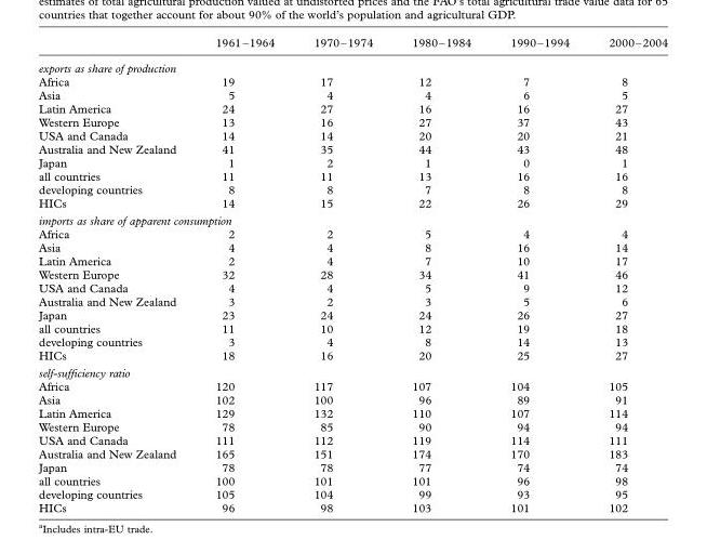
<table><thead><tr><td></td><td>1961–1964</td><td>1970–1974</td><td>1980–1984</td><td>1990–1994</td><td>2000–2004</td></tr></thead><tbody><tr><td colspan="6">exports as share of production</td></tr><tr><td>Africa</td><td>19</td><td>17</td><td>12</td><td>7</td><td>8</td></tr><tr><td>Asia</td><td>5</td><td>4</td><td>4</td><td>6</td><td>5</td></tr><tr><td>Latin America</td><td>24</td><td>27</td><td>16</td><td>16</td><td>27</td></tr><tr><td>Western Europe</td><td>13</td><td>16</td><td>27</td><td>37</td><td>43</td></tr><tr><td>USA and Canada</td><td>14</td><td>14</td><td>20</td><td>20</td><td>21</td></tr><tr><td>Australia and New Zealand</td><td>41</td><td>35</td><td>44</td><td>43</td><td>48</td></tr><tr><td>Japan</td><td>1</td><td>2</td><td>1</td><td>0</td><td>1</td></tr><tr><td>all countries</td><td>11</td><td>11</td><td>13</td><td>16</td><td>16</td></tr><tr><td>developing countries</td><td>8</td><td>8</td><td>7</td><td>8</td><td>8</td></tr><tr><td>HICs</td><td>14</td><td>15</td><td>22</td><td>26</td><td>29</td></tr><tr><td colspan="6">imports as share of apparent consumption</td></tr><tr><td>Africa</td><td>2</td><td>2</td><td>5</td><td>4</td><td>4</td></tr><tr><td>Asia</td><td>4</td><td>4</td><td>8</td><td>16</td><td>14</td></tr><tr><td>Latin America</td><td>2</td><td>4</td><td>7</td><td>10</td><td>17</td></tr><tr><td>Western Europe</td><td>32</td><td>28</td><td>34</td><td>41</td><td>46</td></tr><tr><td>USA and Canada</td><td>4</td><td>4</td><td>5</td><td>9</td><td>12</td></tr><tr><td>Australia and New Zealand</td><td>3</td><td>2</td><td>3</td><td>5</td><td>6</td></tr><tr><td>Japan</td><td>23</td><td>24</td><td>24</td><td>26</td><td>27</td></tr><tr><td>all countries</td><td>11</td><td>10</td><td>12</td><td>19</td><td>18</td></tr><tr><td>developing countries</td><td>3</td><td>4</td><td>8</td><td>14</td><td>13</td></tr><tr><td>HICs</td><td>18</td><td>16</td><td>20</td><td>25</td><td>27</td></tr><tr><td colspan="6">self-sufficiency ratio</td></tr><tr><td>Africa</td><td>120</td><td>117</td><td>107</td><td>104</td><td>105</td></tr><tr><td>Asia</td><td>102</td><td>100</td><td>96</td><td>89</td><td>91</td></tr><tr><td>Latin America</td><td>129</td><td>132</td><td>110</td><td>107</td><td>114</td></tr><tr><td>Western Europe</td><td>78</td><td>85</td><td>90</td><td>94</td><td>94</td></tr><tr><td>USA and Canada</td><td>111</td><td>112</td><td>119</td><td>114</td><td>111</td></tr><tr><td>Australia and New Zealand</td><td>165</td><td>151</td><td>174</td><td>170</td><td>183</td></tr><tr><td>Japan</td><td>78</td><td>78</td><td>77</td><td>74</td><td>74</td></tr><tr><td>all countries</td><td>100</td><td>101</td><td>101</td><td>96</td><td>98</td></tr><tr><td>developing countries</td><td>105</td><td>104</td><td>99</td><td>93</td><td>95</td></tr><tr><td>HICs</td><td>96</td><td>98</td><td>103</td><td>101</td><td>102</td></tr></tbody></table>